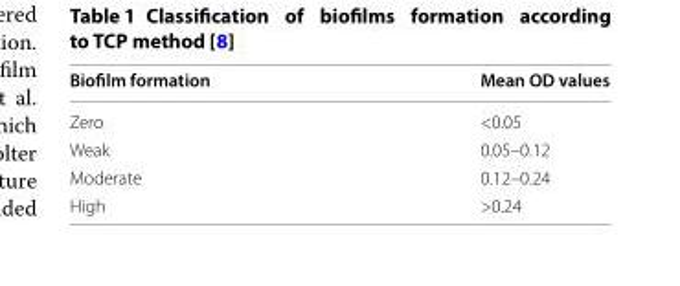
<table><thead><tr><td>Biofilm formation</td><td>Mean OD values</td></tr></thead><tbody><tr><td>Zero</td><td>&lt;0.05</td></tr><tr><td>Weak</td><td>0.05–0.12</td></tr><tr><td>Moderate</td><td>0.12–0.24</td></tr><tr><td>High</td><td>&gt;0.24</td></tr></tbody></table>